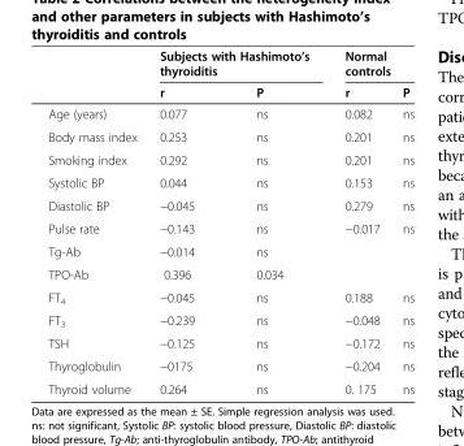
<table><thead><tr><td rowspan="2"></td><td colspan="2">Subjects with Hashimoto’s thyroiditis</td><td colspan="2">Normal controls</td></tr><tr><td>r</td><td>P</td><td>r</td><td>P</td></tr></thead><tbody><tr><td>Age (years)</td><td>0.077</td><td>ns</td><td>0.082</td><td>ns</td></tr><tr><td>Body mass index</td><td>0.253</td><td>ns</td><td>0.201</td><td>ns</td></tr><tr><td>Smoking index</td><td>0.292</td><td>ns</td><td>0.201</td><td>ns</td></tr><tr><td>Systolic BP</td><td>0.044</td><td>ns</td><td>0.153</td><td>ns</td></tr><tr><td>Diastolic BP</td><td>−0.045</td><td>ns</td><td>0.279</td><td>ns</td></tr><tr><td>Pulse rate</td><td>−0.143</td><td>ns</td><td>−0.017</td><td>ns</td></tr><tr><td>Tg-Ab</td><td>−0.014</td><td>ns</td><td></td><td></td></tr><tr><td>TPO-Ab</td><td>0.396</td><td>0.034</td><td></td><td></td></tr><tr><td>FT<sub>4</sub></td><td>−0.045</td><td>ns</td><td>0.188</td><td>ns</td></tr><tr><td>FT<sub>3</sub></td><td>−0.239</td><td>ns</td><td>−0.048</td><td>ns</td></tr><tr><td>TSH</td><td>−0.125</td><td>ns</td><td>−0.172</td><td>ns</td></tr><tr><td>Thyroglobulin</td><td>−0175</td><td>ns</td><td>−0.204</td><td>ns</td></tr><tr><td>Thyroid volume</td><td>0.264</td><td>ns</td><td>0. 175</td><td>ns</td></tr></tbody></table>